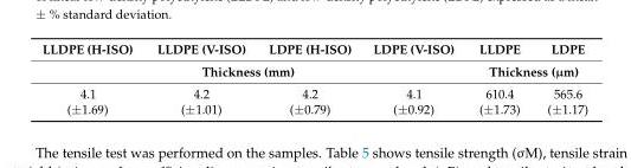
<table><thead><tr><td>LLDPE (H-ISO)</td><td>LLDPE (V-ISO)</td><td>LDPE (H-ISO)</td><td>LDPE (V-ISO)</td><td>LLDPE</td><td>LDPE</td></tr><tr><td colspan="4">Thickness (mm)</td><td colspan="2">Thickness (µm)</td></tr></thead><tbody><tr><td>4.1 (±1.69)</td><td>4.2 (±1.01)</td><td>4.2 (±0.79)</td><td>4.1 (±0.92)</td><td>610.4 (±1.73)</td><td>565.6 (±1.17)</td></tr></tbody></table>